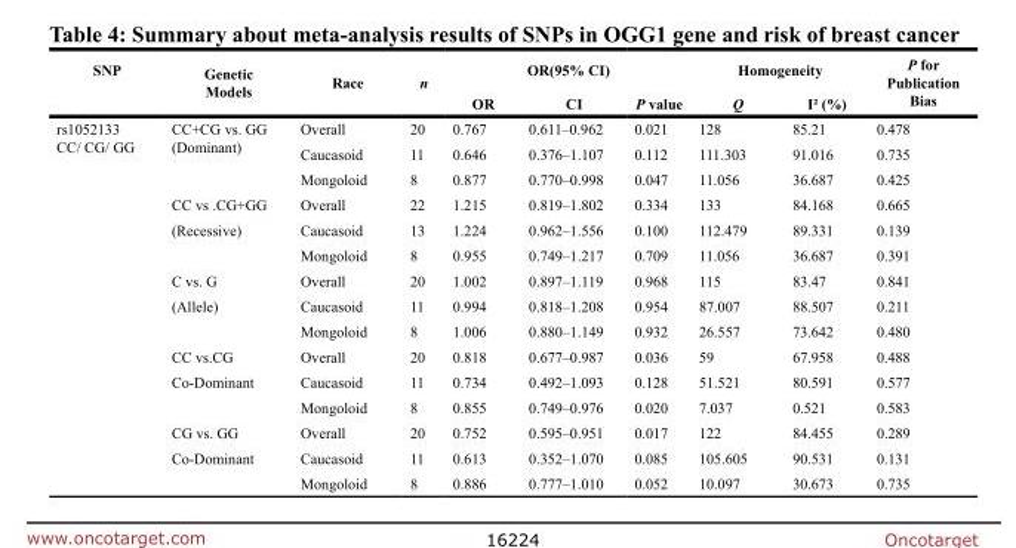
<table><thead><tr><td rowspan="2">SNP</td><td rowspan="2">Genetic Models</td><td rowspan="2">Race</td><td rowspan="2">n</td><td colspan="3">OR(95% CI)</td><td colspan="2">Homogeneity</td><td rowspan="2">P for Publication Bias</td></tr><tr><td>OR</td><td>CI</td><td>P value</td><td>Q</td><td>I² (%)</td></tr></thead><tbody><tr><td rowspan="15">rs1052133 CC/ CG/ GG</td><td rowspan="2">CC+CG vs. GG (Dominant)</td><td>Overall</td><td>20</td><td>0.767</td><td>0.611–0.962</td><td>0.021</td><td>128</td><td>85.21</td><td>0.478</td></tr><tr><td>Caucasoid</td><td>11</td><td>0.646</td><td>0.376–1.107</td><td>0.112</td><td>111.303</td><td>91.016</td><td>0.735</td></tr><tr><td></td><td>Mongoloid</td><td>8</td><td>0.877</td><td>0.770–0.998</td><td>0.047</td><td>11.056</td><td>36.687</td><td>0.425</td></tr><tr><td>CC vs .CG+GG</td><td>Overall</td><td>22</td><td>1.215</td><td>0.819–1.802</td><td>0.334</td><td>133</td><td>84.168</td><td>0.665</td></tr><tr><td>(Recessive)</td><td>Caucasoid</td><td>13</td><td>1.224</td><td>0.962–1.556</td><td>0.100</td><td>112.479</td><td>89.331</td><td>0.139</td></tr><tr><td></td><td>Mongoloid</td><td>8</td><td>0.955</td><td>0.749–1.217</td><td>0.709</td><td>11.056</td><td>36.687</td><td>0.391</td></tr><tr><td>C vs. G</td><td>Overall</td><td>20</td><td>1.002</td><td>0.897–1.119</td><td>0.968</td><td>115</td><td>83.47</td><td>0.841</td></tr><tr><td>(Allele)</td><td>Caucasoid</td><td>11</td><td>0.994</td><td>0.818–1.208</td><td>0.954</td><td>87.007</td><td>88.507</td><td>0.211</td></tr><tr><td></td><td>Mongoloid</td><td>8</td><td>1.006</td><td>0.880–1.149</td><td>0.932</td><td>26.557</td><td>73.642</td><td>0.480</td></tr><tr><td>CC vs.CG</td><td>Overall</td><td>20</td><td>0.818</td><td>0.677–0.987</td><td>0.036</td><td>59</td><td>67.958</td><td>0.488</td></tr><tr><td>Co-Dominant</td><td>Caucasoid</td><td>11</td><td>0.734</td><td>0.492–1.093</td><td>0.128</td><td>51.521</td><td>80.591</td><td>0.577</td></tr><tr><td></td><td>Mongoloid</td><td>8</td><td>0.855</td><td>0.749–0.976</td><td>0.020</td><td>7.037</td><td>0.521</td><td>0.583</td></tr><tr><td>CG vs. GG</td><td>Overall</td><td>20</td><td>0.752</td><td>0.595–0.951</td><td>0.017</td><td>122</td><td>84.455</td><td>0.289</td></tr><tr><td>Co-Dominant</td><td>Caucasoid</td><td>11</td><td>0.613</td><td>0.352–1.070</td><td>0.085</td><td>105.605</td><td>90.531</td><td>0.131</td></tr><tr><td></td><td>Mongoloid</td><td>8</td><td>0.886</td><td>0.777–1.010</td><td>0.052</td><td>10.097</td><td>30.673</td><td>0.735</td></tr></tbody></table>